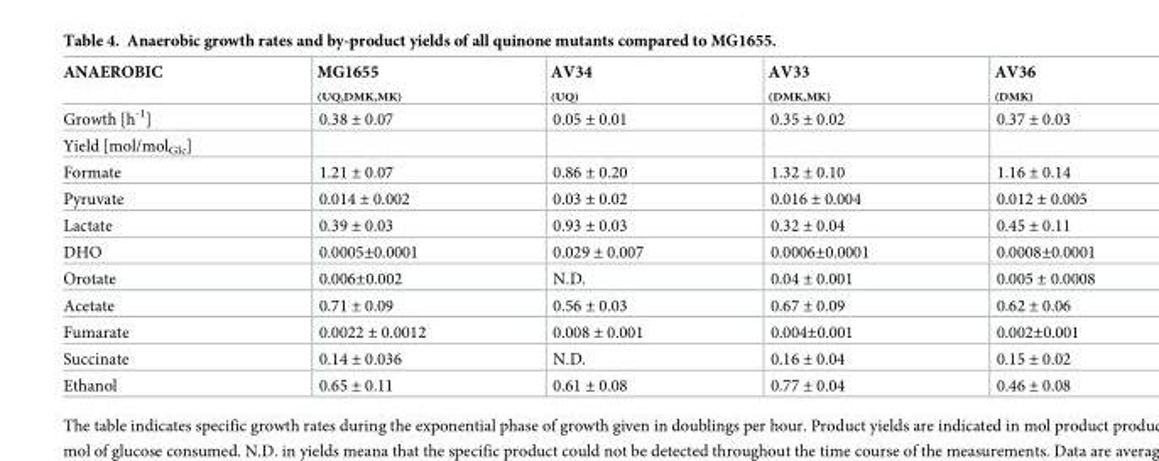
<table><thead><tr><td>ANAEROBIC</td><td>MG1655 <sub>(UQ,DMK,MK)</sub></td><td>AV34 <sub>(UQ)</sub></td><td>AV33 <sub>(DMK,MK)</sub></td><td>AV36 <sub>(DMK)</sub></td></tr></thead><tbody><tr><td>Growth [h<sup>-1</sup>]</td><td>0.38 ± 0.07</td><td>0.05 ± 0.01</td><td>0.35 ± 0.02</td><td>0.37 ± 0.03</td></tr><tr><td colspan="5">Yield [mol/mol<sub>Glc</sub>]</td></tr><tr><td>Formate</td><td>1.21 ± 0.07</td><td>0.86 ± 0.20</td><td>1.32 ± 0.10</td><td>1.16 ± 0.14</td></tr><tr><td>Pyruvate</td><td>0.014 ± 0.002</td><td>0.03 ± 0.02</td><td>0.016 ± 0.004</td><td>0.012 ± 0.005</td></tr><tr><td>Lactate</td><td>0.39 ± 0.03</td><td>0.93 ± 0.03</td><td>0.32 ± 0.04</td><td>0.45 ± 0.11</td></tr><tr><td>DHO</td><td>0.0005±0.0001</td><td>0.029 ± 0.007</td><td>0.0006±0.0001</td><td>0.0008±0.0001</td></tr><tr><td>Orotate</td><td>0.006±0.002</td><td>N.D.</td><td>0.04 ± 0.001</td><td>0.005 ± 0.0008</td></tr><tr><td>Acetate</td><td>0.71 ± 0.09</td><td>0.56 ± 0.03</td><td>0.67 ± 0.09</td><td>0.62 ± 0.06</td></tr><tr><td>Fumarate</td><td>0.0022 ± 0.0012</td><td>0.008 ± 0.001</td><td>0.004±0.001</td><td>0.002±0.001</td></tr><tr><td>Succinate</td><td>0.14 ± 0.036</td><td>N.D.</td><td>0.16 ± 0.04</td><td>0.15 ± 0.02</td></tr><tr><td>Ethanol</td><td>0.65 ± 0.11</td><td>0.61 ± 0.08</td><td>0.77 ± 0.04</td><td>0.46 ± 0.08</td></tr></tbody></table>